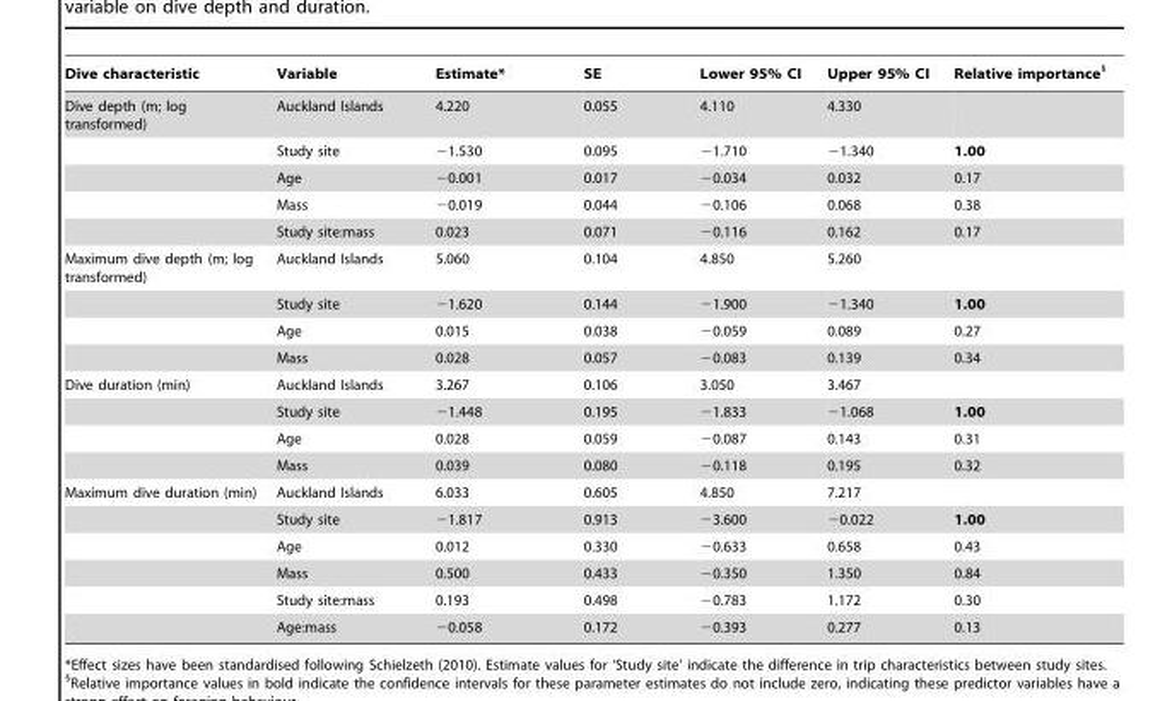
<table><thead><tr><td>Dive characteristic</td><td>Variable</td><td>Estimate*</td><td>SE</td><td>Lower 95% CI</td><td>Upper 95% CI</td><td>Relative importance§</td></tr></thead><tbody><tr><td rowspan="5">Dive depth (m; log transformed)</td><td>Auckland Islands</td><td>4.220</td><td>0.055</td><td>4.110</td><td>4.330</td><td></td></tr><tr><td>Study site</td><td>−1.530</td><td>0.095</td><td>−1.710</td><td>−1.340</td><td>1.00</td></tr><tr><td>Age</td><td>−0.001</td><td>0.017</td><td>−0.034</td><td>0.032</td><td>0.17</td></tr><tr><td>Mass</td><td>−0.019</td><td>0.044</td><td>−0.106</td><td>0.068</td><td>0.38</td></tr><tr><td>Study site:mass</td><td>0.023</td><td>0.071</td><td>−0.116</td><td>0.162</td><td>0.17</td></tr><tr><td rowspan="4">Maximum dive depth (m; log transformed)</td><td>Auckland Islands</td><td>5.060</td><td>0.104</td><td>4.850</td><td>5.260</td><td></td></tr><tr><td>Study site</td><td>−1.620</td><td>0.144</td><td>−1.900</td><td>−1.340</td><td>1.00</td></tr><tr><td>Age</td><td>0.015</td><td>0.038</td><td>−0.059</td><td>0.089</td><td>0.27</td></tr><tr><td>Mass</td><td>0.028</td><td>0.057</td><td>−0.083</td><td>0.139</td><td>0.34</td></tr><tr><td rowspan="4">Dive duration (min)</td><td>Auckland Islands</td><td>3.267</td><td>0.106</td><td>3.050</td><td>3.467</td><td></td></tr><tr><td>Study site</td><td>−1.448</td><td>0.195</td><td>−1.833</td><td>−1.068</td><td>1.00</td></tr><tr><td>Age</td><td>0.028</td><td>0.059</td><td>−0.087</td><td>0.143</td><td>0.31</td></tr><tr><td>Mass</td><td>0.039</td><td>0.080</td><td>−0.118</td><td>0.195</td><td>0.32</td></tr><tr><td rowspan="6">Maximum dive duration (min)</td><td>Auckland Islands</td><td>6.033</td><td>0.605</td><td>4.850</td><td>7.217</td><td></td></tr><tr><td>Study site</td><td>−1.817</td><td>0.913</td><td>−3.600</td><td>−0.022</td><td>1.00</td></tr><tr><td>Age</td><td>0.012</td><td>0.330</td><td>−0.633</td><td>0.658</td><td>0.43</td></tr><tr><td>Mass</td><td>0.500</td><td>0.433</td><td>−0.350</td><td>1.350</td><td>0.84</td></tr><tr><td>Study site:mass</td><td>0.193</td><td>0.498</td><td>−0.783</td><td>1.172</td><td>0.30</td></tr><tr><td>Age:mass</td><td>−0.058</td><td>0.172</td><td>−0.393</td><td>0.277</td><td>0.13</td></tr></tbody></table>